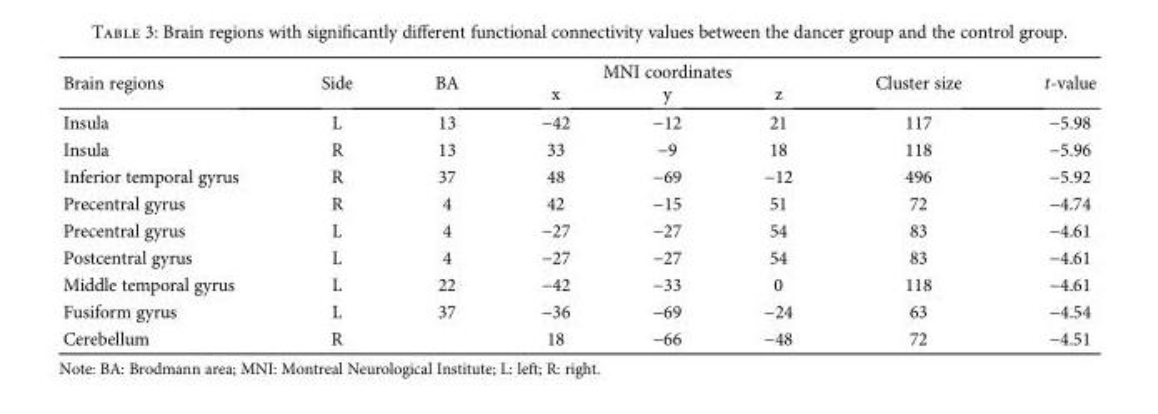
<table><thead><tr><td rowspan="2">Brain regions</td><td rowspan="2">Side</td><td rowspan="2">BA</td><td colspan="3">MNI coordinates</td><td rowspan="2">Cluster size</td><td rowspan="2">t-value</td></tr><tr><td>x</td><td>y</td><td>z</td></tr></thead><tbody><tr><td>Insula</td><td>L</td><td>13</td><td>−42</td><td>−12</td><td>21</td><td>117</td><td>−5.98</td></tr><tr><td>Insula</td><td>R</td><td>13</td><td>33</td><td>−9</td><td>18</td><td>118</td><td>−5.96</td></tr><tr><td>Inferior temporal gyrus</td><td>R</td><td>37</td><td>48</td><td>−69</td><td>−12</td><td>496</td><td>−5.92</td></tr><tr><td>Precentral gyrus</td><td>R</td><td>4</td><td>42</td><td>−15</td><td>51</td><td>72</td><td>−4.74</td></tr><tr><td>Precentral gyrus</td><td>L</td><td>4</td><td>−27</td><td>−27</td><td>54</td><td>83</td><td>−4.61</td></tr><tr><td>Postcentral gyrus</td><td>L</td><td>4</td><td>−27</td><td>−27</td><td>54</td><td>83</td><td>−4.61</td></tr><tr><td>Middle temporal gyrus</td><td>L</td><td>22</td><td>−42</td><td>−33</td><td>0</td><td>118</td><td>−4.61</td></tr><tr><td>Fusiform gyrus</td><td>L</td><td>37</td><td>−36</td><td>−69</td><td>−24</td><td>63</td><td>−4.54</td></tr><tr><td>Cerebellum</td><td>R</td><td></td><td>18</td><td>−66</td><td>−48</td><td>72</td><td>−4.51</td></tr></tbody></table>